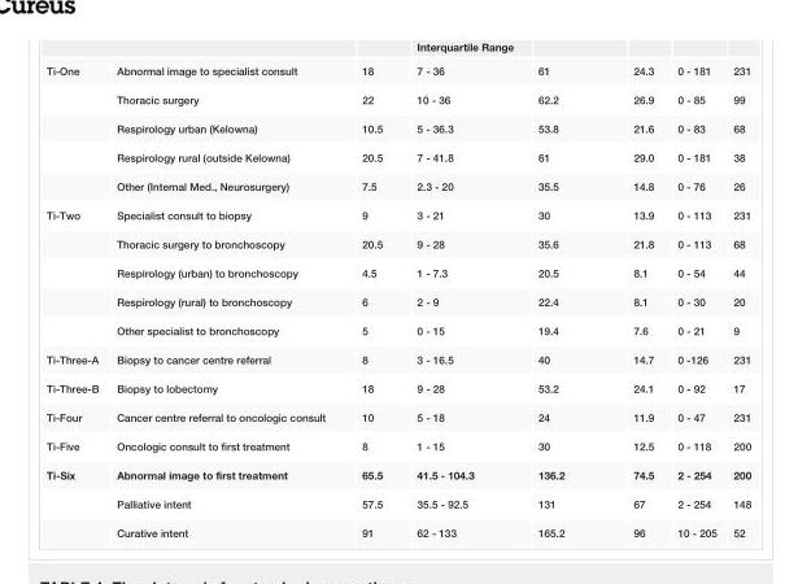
<table><tbody><tr><td colspan="2"></td><td></td><td>Interquartile Range</td><td></td><td></td><td></td><td></td></tr><tr><td rowspan="5">Ti-One</td><td>Abnormal image to specialist consult</td><td>18</td><td>7 - 36</td><td>61</td><td>24.3</td><td>0 - 181</td><td>231</td></tr><tr><td>Thoracic surgery</td><td>22</td><td>10 - 36</td><td>62.2</td><td>26.9</td><td>0 - 85</td><td>99</td></tr><tr><td>Respirology urban (Kelowna)</td><td>10.5</td><td>5 - 36.3</td><td>53.8</td><td>21.6</td><td>0 - 83</td><td>68</td></tr><tr><td>Respirology rural (outside Kelowna)</td><td>20.5</td><td>7 - 41.8</td><td>61</td><td>29.0</td><td>0 - 181</td><td>38</td></tr><tr><td>Other (Internal Med., Neurosurgery)</td><td>7.5</td><td>2.3 - 20</td><td>35.5</td><td>14.8</td><td>0 - 76</td><td>26</td></tr><tr><td rowspan="5">Ti-Two</td><td>Specialist consult to biopsy</td><td>9</td><td>3 - 21</td><td>30</td><td>13.9</td><td>0 - 113</td><td>231</td></tr><tr><td>Thoracic surgery to bronchoscopy</td><td>20.5</td><td>9 - 28</td><td>35.6</td><td>21.8</td><td>0 - 113</td><td>68</td></tr><tr><td>Respirology (urban) to bronchoscopy</td><td>4.5</td><td>1 - 7.3</td><td>20.5</td><td>8.1</td><td>0 - 54</td><td>44</td></tr><tr><td>Respirology (rural) to bronchoscopy</td><td>6</td><td>2 - 9</td><td>22.4</td><td>8.1</td><td>0 - 30</td><td>20</td></tr><tr><td>Other specialist to bronchoscopy</td><td>5</td><td>0 - 15</td><td>19.4</td><td>7.6</td><td>0 - 21</td><td>9</td></tr><tr><td>Ti-Three-A</td><td>Biopsy to cancer centre referral</td><td>8</td><td>3 - 16.5</td><td>40</td><td>14.7</td><td>0 -126</td><td>231</td></tr><tr><td>Ti-Three-B</td><td>Biopsy to lobectomy</td><td>18</td><td>9 - 28</td><td>53.2</td><td>24.1</td><td>0 - 92</td><td>17</td></tr><tr><td>Ti-Four</td><td>Cancer centre referral to oncologic consult</td><td>10</td><td>5 - 18</td><td>24</td><td>11.9</td><td>0 - 47</td><td>231</td></tr><tr><td>Ti-Five</td><td>Oncologic consult to first treatment</td><td>8</td><td>1 - 15</td><td>30</td><td>12.5</td><td>0 - 118</td><td>200</td></tr><tr><td rowspan="3">Ti-Six</td><td>Abnormal image to first treatment</td><td>65.5</td><td>41.5 - 104.3</td><td>136.2</td><td>74.5</td><td>2 - 254</td><td>200</td></tr><tr><td>Palliative intent</td><td>57.5</td><td>35.5 - 92.5</td><td>131</td><td>67</td><td>2 - 254</td><td>148</td></tr><tr><td>Curative intent</td><td>91</td><td>62 - 133</td><td>165.2</td><td>96</td><td>10 - 205</td><td>52</td></tr></tbody></table>